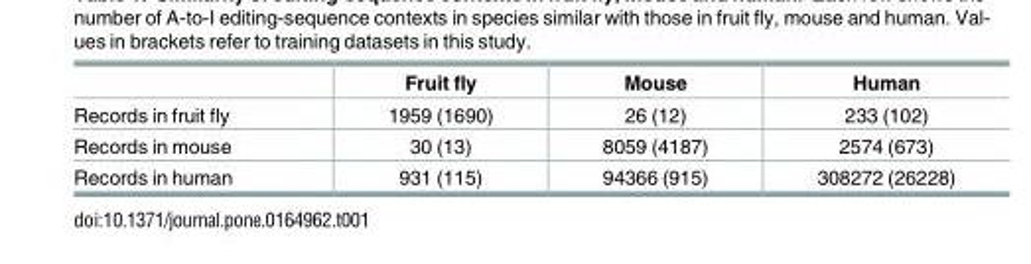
<table><thead><tr><td></td><td>Fruit fly</td><td>Mouse</td><td>Human</td></tr></thead><tbody><tr><td>Records in fruit fly</td><td>1959 (1690)</td><td>26 (12)</td><td>233 (102)</td></tr><tr><td>Records in mouse</td><td>30 (13)</td><td>8059 (4187)</td><td>2574 (673)</td></tr><tr><td>Records in human</td><td>931 (115)</td><td>94366 (915)</td><td>308272 (26228)</td></tr></tbody></table>